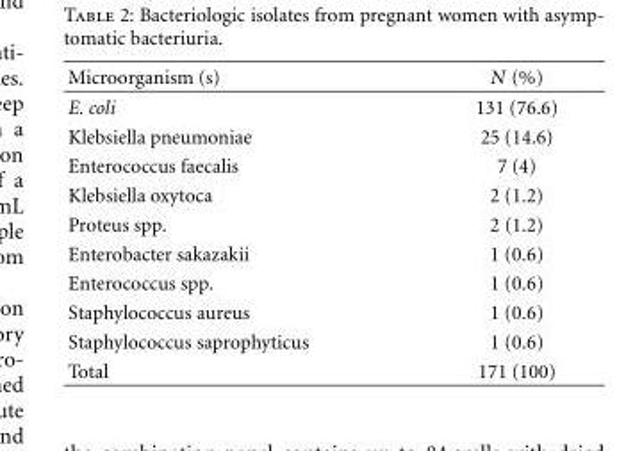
<table><thead><tr><td>Microorganism (s)</td><td>N (%)</td></tr></thead><tbody><tr><td>E. coli</td><td>131 (76.6)</td></tr><tr><td>Klebsiella pneumoniae</td><td>25 (14.6)</td></tr><tr><td>Enterococcus faecalis</td><td>7 (4)</td></tr><tr><td>Klebsiella oxytoca</td><td>2 (1.2)</td></tr><tr><td>Proteus spp.</td><td>2 (1.2)</td></tr><tr><td>Enterobacter sakazakii</td><td>1 (0.6)</td></tr><tr><td>Enterococcus spp.</td><td>1 (0.6)</td></tr><tr><td>Staphylococcus aureus</td><td>1 (0.6)</td></tr><tr><td>Staphylococcus saprophyticus</td><td>1 (0.6)</td></tr><tr><td>Total</td><td>171 (100)</td></tr></tbody></table>